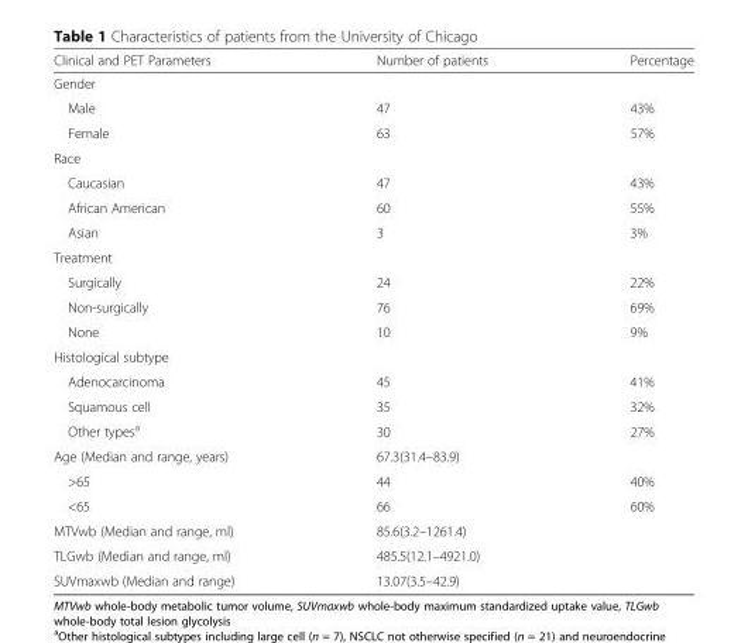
<table><thead><tr><td>Clinical and PET Parameters</td><td>Number of patients</td><td>Percentage</td></tr></thead><tbody><tr><td colspan="3">Gender</td></tr><tr><td>Male</td><td>47</td><td>43%</td></tr><tr><td>Female</td><td>63</td><td>57%</td></tr><tr><td colspan="3">Race</td></tr><tr><td>Caucasian</td><td>47</td><td>43%</td></tr><tr><td>African American</td><td>60</td><td>55%</td></tr><tr><td>Asian</td><td>3</td><td>3%</td></tr><tr><td colspan="3">Treatment</td></tr><tr><td>Surgically</td><td>24</td><td>22%</td></tr><tr><td>Non-surgically</td><td>76</td><td>69%</td></tr><tr><td>None</td><td>10</td><td>9%</td></tr><tr><td colspan="3">Histological subtype</td></tr><tr><td>Adenocarcinoma</td><td>45</td><td>41%</td></tr><tr><td>Squamous cell</td><td>35</td><td>32%</td></tr><tr><td>Other types<sup>a</sup></td><td>30</td><td>27%</td></tr><tr><td>Age (Median and range, years)</td><td>67.3(31.4–83.9)</td><td></td></tr><tr><td>&gt;65</td><td>44</td><td>40%</td></tr><tr><td>&lt;65</td><td>66</td><td>60%</td></tr><tr><td>MTVwb (Median and range, ml)</td><td>85.6(3.2–1261.4)</td><td></td></tr><tr><td>TLGwb (Median and range, ml)</td><td>485.5(12.1–4921.0)</td><td></td></tr><tr><td>SUVmaxwb (Median and range)</td><td>13.07(3.5–42.9)</td><td></td></tr></tbody></table>